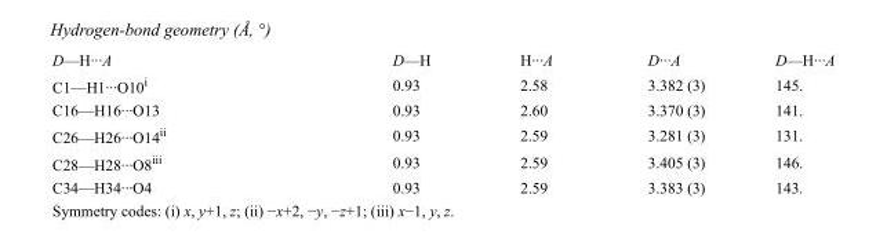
<table><tbody><tr><td>D—H···A</td><td>D—H</td><td>H···A</td><td>D···A</td><td>D—H···A</td></tr><tr><td>C1—H1···O10<sup>i</sup></td><td>0.93</td><td>2.58</td><td>3.382 (3)</td><td>145.</td></tr><tr><td>C16—H16···O13</td><td>0.93</td><td>2.60</td><td>3.370 (3)</td><td>141.</td></tr><tr><td>C26—H26···O14<sup>ii</sup></td><td>0.93</td><td>2.59</td><td>3.281 (3)</td><td>131.</td></tr><tr><td>C28—H28···O8<sup>iii</sup></td><td>0.93</td><td>2.59</td><td>3.405 (3)</td><td>146.</td></tr><tr><td>C34—H34···O4</td><td>0.93</td><td>2.59</td><td>3.383 (3)</td><td>143.</td></tr></tbody></table>